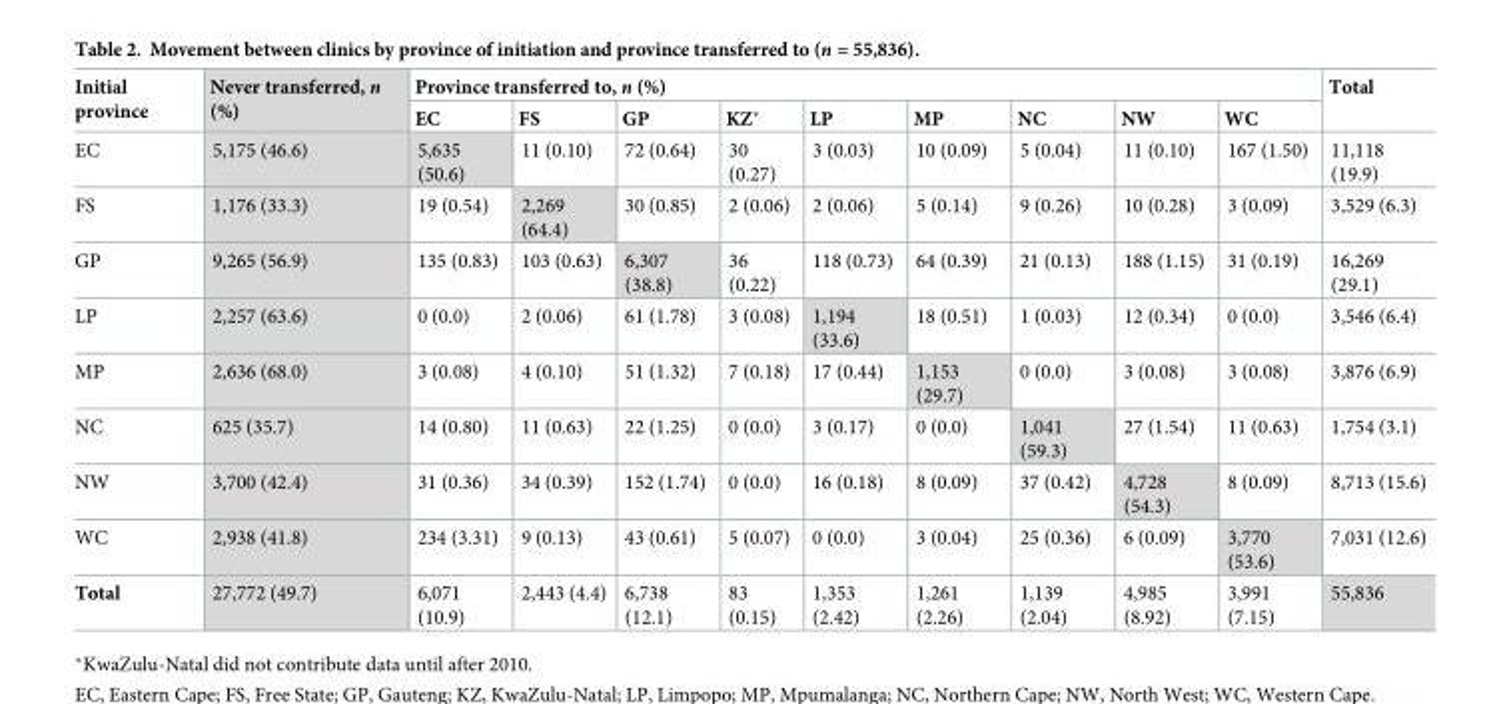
<table><thead><tr><td rowspan="2">Initial province</td><td rowspan="2">Never transferred, n (%)</td><td colspan="9">Province transferred to, n (%)</td><td rowspan="2">Total</td></tr><tr><td>EC</td><td>FS</td><td>GP</td><td>KZ*</td><td>LP</td><td>MP</td><td>NC</td><td>NW</td><td>WC</td></tr></thead><tbody><tr><td>EC</td><td>5,175 (46.6)</td><td>5,635 (50.6)</td><td>11 (0.10)</td><td>72 (0.64)</td><td>30 (0.27)</td><td>3 (0.03)</td><td>10 (0.09)</td><td>5 (0.04)</td><td>11 (0.10)</td><td>167 (1.50)</td><td>11,118 (19.9)</td></tr><tr><td>FS</td><td>1,176 (33.3)</td><td>19 (0.54)</td><td>2,269 (64.4)</td><td>30 (0.85)</td><td>2 (0.06)</td><td>2 (0.06)</td><td>5 (0.14)</td><td>9 (0.26)</td><td>10 (0.28)</td><td>3 (0.09)</td><td>3,529 (6.3)</td></tr><tr><td>GP</td><td>9,265 (56.9)</td><td>135 (0.83)</td><td>103 (0.63)</td><td>6,307 (38.8)</td><td>36 (0.22)</td><td>118 (0.73)</td><td>64 (0.39)</td><td>21 (0.13)</td><td>188 (1.15)</td><td>31 (0.19)</td><td>16,269 (29.1)</td></tr><tr><td>LP</td><td>2,257 (63.6)</td><td>0 (0.0)</td><td>2 (0.06)</td><td>61 (1.78)</td><td>3 (0.08)</td><td>1,194 (33.6)</td><td>18 (0.51)</td><td>1 (0.03)</td><td>12 (0.34)</td><td>0 (0.0)</td><td>3,546 (6.4)</td></tr><tr><td>MP</td><td>2,636 (68.0)</td><td>3 (0.08)</td><td>4 (0.10)</td><td>51 (1.32)</td><td>7 (0.18)</td><td>17 (0.44)</td><td>1,153 (29.7)</td><td>0 (0.0)</td><td>3 (0.08)</td><td>3 (0.08)</td><td>3,876 (6.9)</td></tr><tr><td>NC</td><td>625 (35.7)</td><td>14 (0.80)</td><td>11 (0.63)</td><td>22 (1.25)</td><td>0 (0.0)</td><td>3 (0.17)</td><td>0 (0.0)</td><td>1,041 (59.3)</td><td>27 (1.54)</td><td>11 (0.63)</td><td>1,754 (3.1)</td></tr><tr><td>NW</td><td>3,700 (42.4)</td><td>31 (0.36)</td><td>34 (0.39)</td><td>152 (1.74)</td><td>0 (0.0)</td><td>16 (0.18)</td><td>8 (0.09)</td><td>37 (0.42)</td><td>4,728 (54.3)</td><td>8 (0.09)</td><td>8,713 (15.6)</td></tr><tr><td>WC</td><td>2,938 (41.8)</td><td>234 (3.31)</td><td>9 (0.13)</td><td>43 (0.61)</td><td>5 (0.07)</td><td>0 (0.0)</td><td>3 (0.04)</td><td>25 (0.36)</td><td>6 (0.09)</td><td>3,770 (53.6)</td><td>7,031 (12.6)</td></tr><tr><td>Total</td><td>27,772 (49.7)</td><td>6,071 (10.9)</td><td>2,443 (4.4)</td><td>6,738 (12.1)</td><td>83 (0.15)</td><td>1,353 (2.42)</td><td>1,261 (2.26)</td><td>1,139 (2.04)</td><td>4,985 (8.92)</td><td>3,991 (7.15)</td><td>55,836</td></tr></tbody></table>